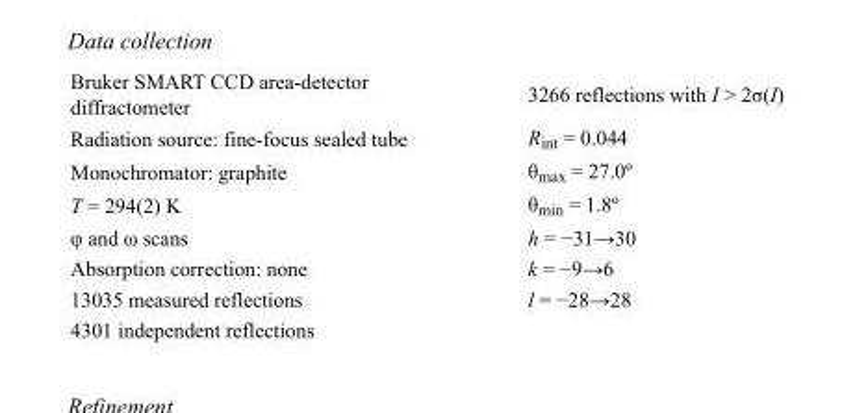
<table><tbody><tr><td>Bruker SMART CCD area-detector diffractometer</td><td>3266 reflections with I &gt; 2σ(I)</td></tr><tr><td>Radiation source: fine-focus sealed tube</td><td>R<sub>int</sub> = 0.044</td></tr><tr><td>Monochromator: graphite</td><td>θ<sub>max</sub> = 27.0º</td></tr><tr><td>T = 294(2) K</td><td>θ<sub>min</sub> = 1.8º</td></tr><tr><td>φ and ω scans</td><td>h = −31→30</td></tr><tr><td>Absorption correction: none</td><td>k = −9→6</td></tr><tr><td>13035 measured reflections</td><td>l = −28→28</td></tr><tr><td>4301 independent reflections</td><td></td></tr></tbody></table>